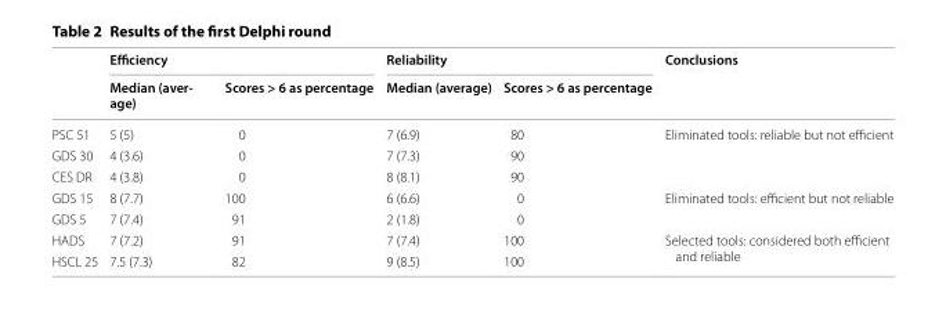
<table><thead><tr><td rowspan="2"></td><td colspan="2">Efficiency</td><td colspan="2">Reliability</td><td rowspan="2">Conclusions</td></tr><tr><td>Median (aver- age)</td><td>Scores &gt; 6 as percentage</td><td>Median (average)</td><td>Scores &gt; 6 as percentage</td></tr></thead><tbody><tr><td>PSC 51</td><td>5 (5)</td><td>0</td><td>7 (6.9)</td><td>80</td><td rowspan="3">Eliminated tools: reliable but not efficient</td></tr><tr><td>GDS 30</td><td>4 (3.6)</td><td>0</td><td>7 (7.3)</td><td>90</td></tr><tr><td>CES DR</td><td>4 (3.8)</td><td>0</td><td>8 (8.1)</td><td>90</td></tr><tr><td>GDS 15</td><td>8 (7.7)</td><td>100</td><td>6 (6.6)</td><td>0</td><td rowspan="2">Eliminated tools: efficient but not reliable</td></tr><tr><td>GDS 5</td><td>7 (7.4)</td><td>91</td><td>2 (1.8)</td><td>0</td></tr><tr><td>HADS</td><td>7 (7.2)</td><td>91</td><td>7 (7.4)</td><td>100</td><td rowspan="2">Selected tools: considered both efficient and reliable</td></tr><tr><td>HSCL 25</td><td>7.5 (7.3)</td><td>82</td><td>9 (8.5)</td><td>100</td></tr></tbody></table>